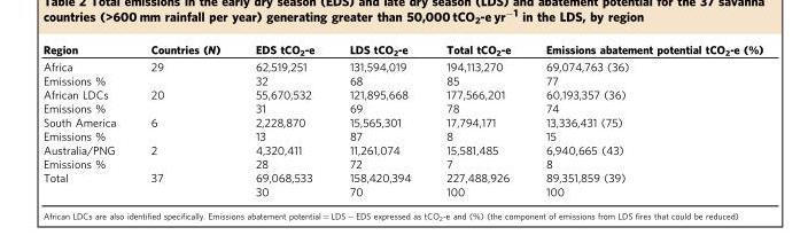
<table><thead><tr><td>Region</td><td>Countries (N)</td><td>EDS tCO<sub>2</sub>-e</td><td>LDS tCO<sub>2</sub>-e</td><td>Total tCO<sub>2</sub>-e</td><td>Emissions abatement potential tCO<sub>2</sub>-e (%)</td></tr></thead><tbody><tr><td>Africa</td><td>29</td><td>62,519,251</td><td>131,594,019</td><td>194,113,270</td><td>69,074,763 (36)</td></tr><tr><td>Emissions %</td><td></td><td>32</td><td>68</td><td>85</td><td>77</td></tr><tr><td>African LDCs</td><td>20</td><td>55,670,532</td><td>121,895,668</td><td>177,566,201</td><td>60,193,357 (36)</td></tr><tr><td>Emissions %</td><td></td><td>31</td><td>69</td><td>78</td><td>74</td></tr><tr><td>South America</td><td>6</td><td>2,228,870</td><td>15,565,301</td><td>17,794,171</td><td>13,336,431 (75)</td></tr><tr><td>Emissions %</td><td></td><td>13</td><td>87</td><td>8</td><td>15</td></tr><tr><td>Australia/PNG</td><td>2</td><td>4,320,411</td><td>11,261,074</td><td>15,581,485</td><td>6,940,665 (43)</td></tr><tr><td>Emissions %</td><td></td><td>28</td><td>72</td><td>7</td><td>8</td></tr><tr><td rowspan="2">Total</td><td>37</td><td>69,068,533</td><td>158,420,394</td><td>227,488,926</td><td>89,351,859 (39)</td></tr><tr><td></td><td>30</td><td>70</td><td>100</td><td>100</td></tr></tbody></table>